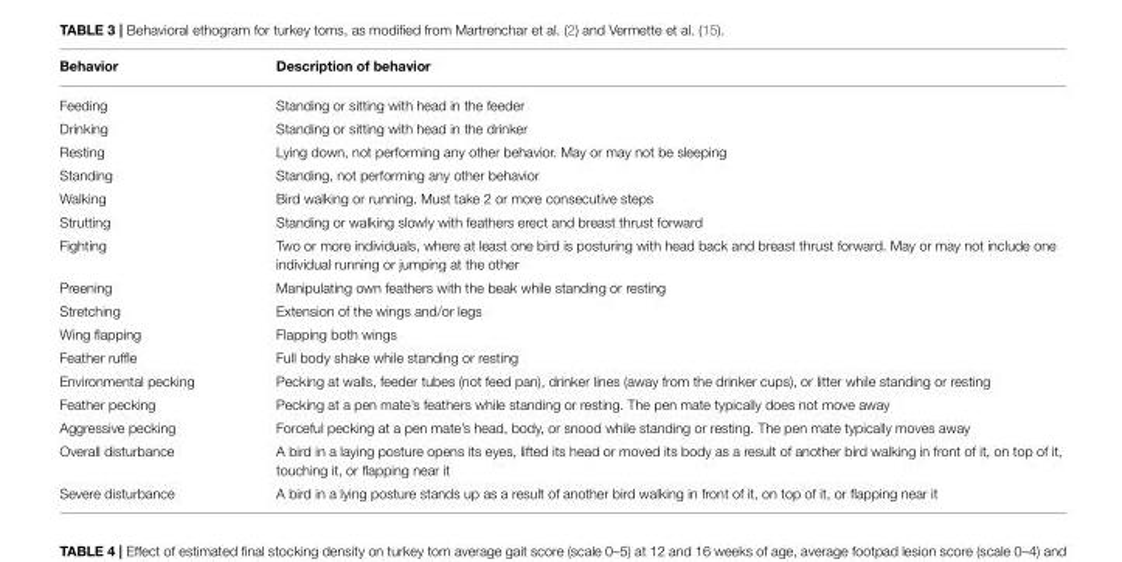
<table><thead><tr><td>Behavior</td><td>Description of behavior</td></tr></thead><tbody><tr><td>Feeding</td><td>Standing or sitting with head in the feeder</td></tr><tr><td>Drinking</td><td>Standing or sitting with head in the drinker</td></tr><tr><td>Resting</td><td>Lying down, not performing any other behavior. May or may not be sleeping</td></tr><tr><td>Standing</td><td>Standing, not performing any other behavior</td></tr><tr><td>Walking</td><td>Bird walking or running. Must take 2 or more consecutive steps</td></tr><tr><td>Strutting</td><td>Standing or walking slowly with feathers erect and breast thrust forward</td></tr><tr><td>Fighting</td><td>Two or more individuals, where at least one bird is posturing with head back and breast thrust forward. May or may not include one individual running or jumping at the other</td></tr><tr><td>Preening</td><td>Manipulating own feathers with the beak while standing or resting</td></tr><tr><td>Stretching</td><td>Extension of the wings and/or legs</td></tr><tr><td>Wing flapping</td><td>Flapping both wings</td></tr><tr><td>Feather ruffle</td><td>Full body shake while standing or resting</td></tr><tr><td>Environmental pecking</td><td>Pecking at walls, feeder tubes (not feed pan), drinker lines (away from the drinker cups), or litter while standing or resting</td></tr><tr><td>Feather pecking</td><td>Pecking at a pen mate’s feathers while standing or resting. The pen mate typically does not move away</td></tr><tr><td>Aggressive pecking</td><td>Forceful pecking at a pen mate’s head, body, or snood while standing or resting. The pen mate typically moves away</td></tr><tr><td>Overall disturbance</td><td>A bird in a laying posture opens its eyes, lifted its head or moved its body as a result of another bird walking in front of it, on top of it, touching it, or flapping near it</td></tr><tr><td>Severe disturbance</td><td>A bird in a lying posture stands up as a result of another bird walking in front of it, on top of it, or flapping near it</td></tr></tbody></table>